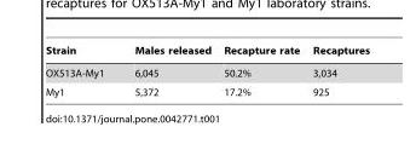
<table><thead><tr><td>Strain</td><td>Males released</td><td>Recapture rate</td><td>Recaptures</td></tr></thead><tbody><tr><td>OX513A-My1</td><td>6,045</td><td>50.2%</td><td>3,034</td></tr><tr><td>My1</td><td>5,372</td><td>17.2%</td><td>925</td></tr></tbody></table>